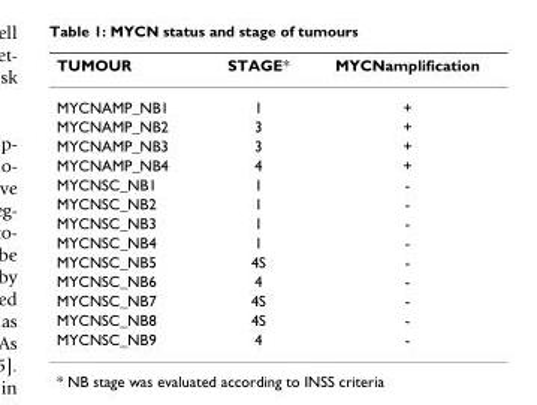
<table><thead><tr><td>TUMOUR</td><td>STAGE*</td><td>MYCNamplification</td></tr></thead><tbody><tr><td>MYCNAMP_NB1</td><td>1</td><td>+</td></tr><tr><td>MYCNAMP_NB2</td><td>3</td><td>+</td></tr><tr><td>MYCNAMP_NB3</td><td>3</td><td>+</td></tr><tr><td>MYCNAMP_NB4</td><td>4</td><td>+</td></tr><tr><td>MYCNSC_NB1</td><td>1</td><td>-</td></tr><tr><td>MYCNSC_NB2</td><td>1</td><td>-</td></tr><tr><td>MYCNSC_NB3</td><td>1</td><td>-</td></tr><tr><td>MYCNSC_NB4</td><td>1</td><td>-</td></tr><tr><td>MYCNSC_NB5</td><td>4S</td><td>-</td></tr><tr><td>MYCNSC_NB6</td><td>4</td><td>-</td></tr><tr><td>MYCNSC_NB7</td><td>4S</td><td>-</td></tr><tr><td>MYCNSC_NB8</td><td>4S</td><td>-</td></tr><tr><td>MYCNSC_NB9</td><td>4</td><td>-</td></tr></tbody></table>